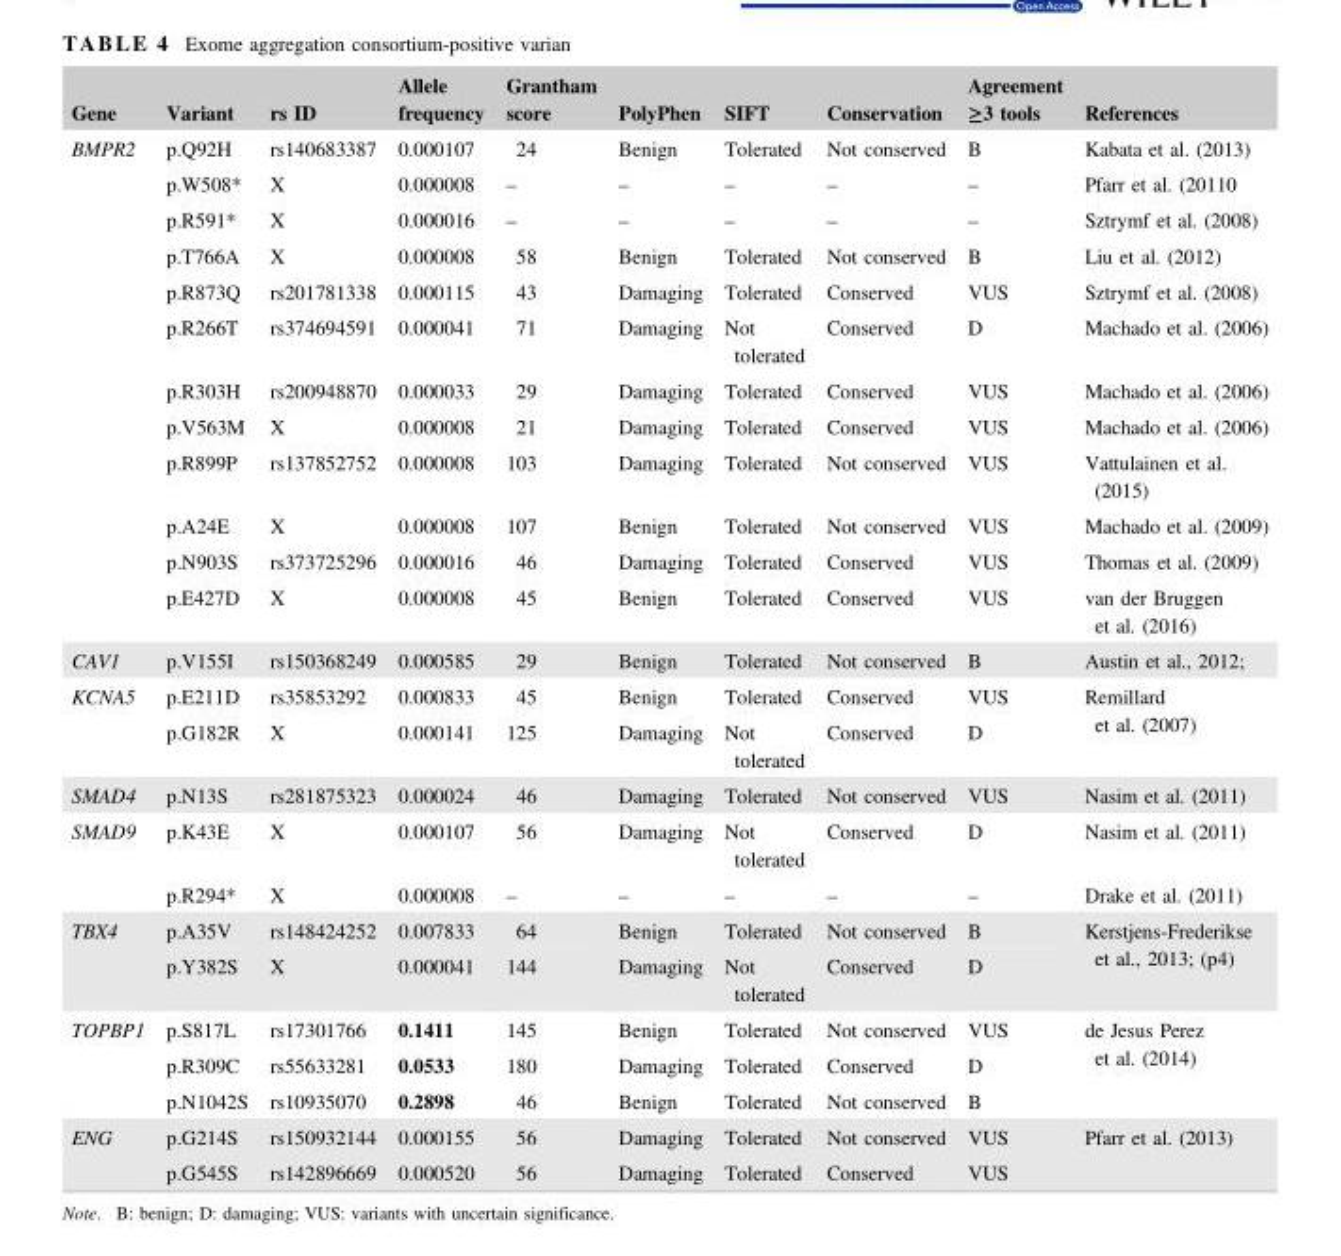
<table><thead><tr><td>Gene</td><td>Variant</td><td>rs ID</td><td>Allele frequency</td><td>Grantham score</td><td>PolyPhen</td><td>SIFT</td><td>Conservation</td><td>Agreement ≥3 tools</td><td>References</td></tr></thead><tbody><tr><td rowspan="12">BMPR2</td><td>p.Q92H</td><td>rs140683387</td><td>0.000107</td><td>24</td><td>Benign</td><td>Tolerated</td><td>Not conserved</td><td>B</td><td>Kabata et al. (2013)</td></tr><tr><td>p.W508*</td><td>X</td><td>0.000008</td><td>–</td><td>–</td><td>–</td><td>–</td><td>–</td><td>Pfarr et al. (20110</td></tr><tr><td>p.R591*</td><td>X</td><td>0.000016</td><td>–</td><td>–</td><td>–</td><td>–</td><td>–</td><td>Sztrymf et al. (2008)</td></tr><tr><td>p.T766A</td><td>X</td><td>0.000008</td><td>58</td><td>Benign</td><td>Tolerated</td><td>Not conserved</td><td>B</td><td>Liu et al. (2012)</td></tr><tr><td>p.R873Q</td><td>rs201781338</td><td>0.000115</td><td>43</td><td>Damaging</td><td>Tolerated</td><td>Conserved</td><td>VUS</td><td>Sztrymf et al. (2008)</td></tr><tr><td>p.R266T</td><td>rs374694591</td><td>0.000041</td><td>71</td><td>Damaging</td><td>Not tolerated</td><td>Conserved</td><td>D</td><td>Machado et al. (2006)</td></tr><tr><td>p.R303H</td><td>rs200948870</td><td>0.000033</td><td>29</td><td>Damaging</td><td>Tolerated</td><td>Conserved</td><td>VUS</td><td>Machado et al. (2006)</td></tr><tr><td>p.V563M</td><td>X</td><td>0.000008</td><td>21</td><td>Damaging</td><td>Tolerated</td><td>Conserved</td><td>VUS</td><td>Machado et al. (2006)</td></tr><tr><td>p.R899P</td><td>rs137852752</td><td>0.000008</td><td>103</td><td>Damaging</td><td>Tolerated</td><td>Not conserved</td><td>VUS</td><td>Vattulainen et al. (2015)</td></tr><tr><td>p.A24E</td><td>X</td><td>0.000008</td><td>107</td><td>Benign</td><td>Tolerated</td><td>Not conserved</td><td>VUS</td><td>Machado et al. (2009)</td></tr><tr><td>p.N903S</td><td>rs373725296</td><td>0.000016</td><td>46</td><td>Damaging</td><td>Tolerated</td><td>Conserved</td><td>VUS</td><td>Thomas et al. (2009)</td></tr><tr><td>p.E427D</td><td>X</td><td>0.000008</td><td>45</td><td>Benign</td><td>Tolerated</td><td>Conserved</td><td>VUS</td><td>van der Bruggen et al. (2016)</td></tr><tr><td>CAV1</td><td>p.V155I</td><td>rs150368249</td><td>0.000585</td><td>29</td><td>Benign</td><td>Tolerated</td><td>Not conserved</td><td>B</td><td>Austin et al., 2012;</td></tr><tr><td rowspan="2">KCNA5</td><td>p.E211D</td><td>rs35853292</td><td>0.000833</td><td>45</td><td>Benign</td><td>Tolerated</td><td>Conserved</td><td>VUS</td><td rowspan="2">Remillard et al. (2007)</td></tr><tr><td>p.G182R</td><td>X</td><td>0.000141</td><td>125</td><td>Damaging</td><td>Not tolerated</td><td>Conserved</td><td>D</td></tr><tr><td>SMAD4</td><td>p.N13S</td><td>rs281875323</td><td>0.000024</td><td>46</td><td>Damaging</td><td>Tolerated</td><td>Not conserved</td><td>VUS</td><td>Nasim et al. (2011)</td></tr><tr><td rowspan="2">SMAD9</td><td>p.K43E</td><td>X</td><td>0.000107</td><td>56</td><td>Damaging</td><td>Not tolerated</td><td>Conserved</td><td>D</td><td>Nasim et al. (2011)</td></tr><tr><td>p.R294*</td><td>X</td><td>0.000008</td><td>–</td><td>–</td><td>–</td><td>–</td><td>–</td><td>Drake et al. (2011)</td></tr><tr><td rowspan="2">TBX4</td><td>p.A35V</td><td>rs148424252</td><td>0.007833</td><td>64</td><td>Benign</td><td>Tolerated</td><td>Not conserved</td><td>B</td><td rowspan="2">Kerstjens‐Frederikse et al., 2013; (p4)</td></tr><tr><td>p.Y382S</td><td>X</td><td>0.000041</td><td>144</td><td>Damaging</td><td>Not tolerated</td><td>Conserved</td><td>D</td></tr><tr><td rowspan="3">TOPBP1</td><td>p.S817L</td><td>rs17301766</td><td>0.1411</td><td>145</td><td>Benign</td><td>Tolerated</td><td>Not conserved</td><td>VUS</td><td rowspan="3">de Jesus Perez et al. (2014)</td></tr><tr><td>p.R309C</td><td>rs55633281</td><td>0.0533</td><td>180</td><td>Damaging</td><td>Tolerated</td><td>Conserved</td><td>D</td></tr><tr><td>p.N1042S</td><td>rs10935070</td><td>0.2898</td><td>46</td><td>Benign</td><td>Tolerated</td><td>Not conserved</td><td>B</td></tr><tr><td rowspan="2">ENG</td><td>p.G214S</td><td>rs150932144</td><td>0.000155</td><td>56</td><td>Damaging</td><td>Tolerated</td><td>Not conserved</td><td>VUS</td><td rowspan="2">Pfarr et al. (2013)</td></tr><tr><td>p.G545S</td><td>rs142896669</td><td>0.000520</td><td>56</td><td>Damaging</td><td>Tolerated</td><td>Conserved</td><td>VUS</td></tr></tbody></table>